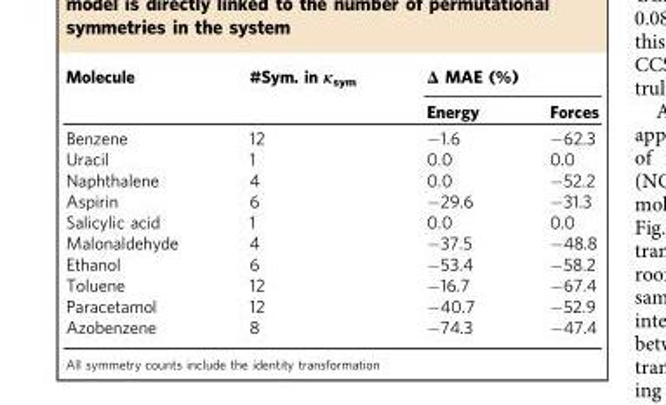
<table><thead><tr><td rowspan="2">Molecule</td><td rowspan="2">#Sym. in κ<sub>sym</sub></td><td colspan="2">Δ MAE (%)</td></tr><tr><td>Energy</td><td>Forces</td></tr></thead><tbody><tr><td>Benzene</td><td>12</td><td>−1.6</td><td>−62.3</td></tr><tr><td>Uracil</td><td>1</td><td>0.0</td><td>0.0</td></tr><tr><td>Naphthalene</td><td>4</td><td>0.0</td><td>−52.2</td></tr><tr><td>Aspirin</td><td>6</td><td>−29.6</td><td>−31.3</td></tr><tr><td>Salicylic acid</td><td>1</td><td>0.0</td><td>0.0</td></tr><tr><td>Malonaldehyde</td><td>4</td><td>−37.5</td><td>−48.8</td></tr><tr><td>Ethanol</td><td>6</td><td>−53.4</td><td>−58.2</td></tr><tr><td>Toluene</td><td>12</td><td>−16.7</td><td>−67.4</td></tr><tr><td>Paracetamol</td><td>12</td><td>−40.7</td><td>−52.9</td></tr><tr><td>Azobenzene</td><td>8</td><td>−74.3</td><td>−47.4</td></tr></tbody></table>